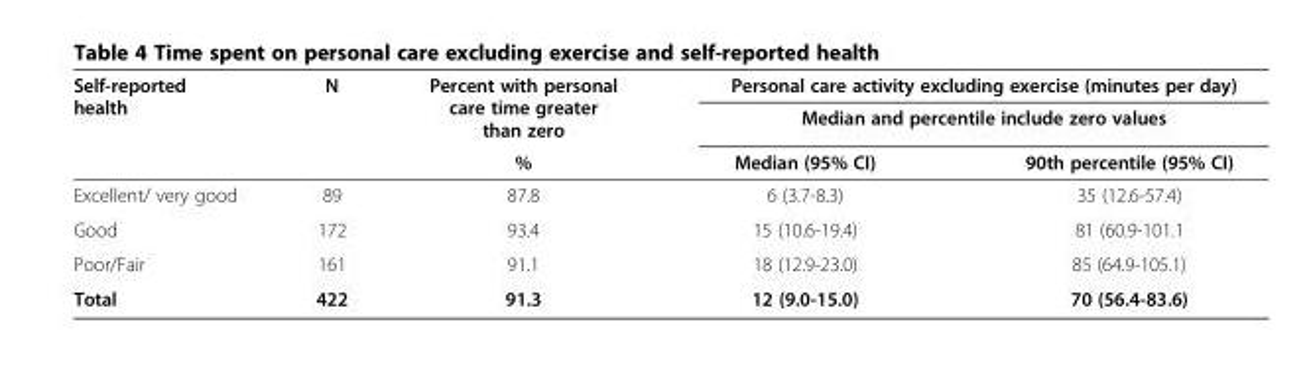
<table><thead><tr><td rowspan="3">Self-reported health</td><td rowspan="3">N</td><td rowspan="3">Percent with personal care time greater than zero %</td><td rowspan="2" colspan="2">Personal care activity excluding exercise (minutes per day) Median and percentile include zero values</td></tr><tr></tr><tr><td>Median (95% CI)</td><td>90th percentile (95% CI)</td></tr></thead><tbody><tr><td>Excellent/ very good</td><td>89</td><td>87.8</td><td>6 (3.7-8.3)</td><td>35 (12.6-57.4)</td></tr><tr><td>Good</td><td>172</td><td>93.4</td><td>15 (10.6-19.4)</td><td>81 (60.9-101.1</td></tr><tr><td>Poor/Fair</td><td>161</td><td>91.1</td><td>18 (12.9-23.0)</td><td>85 (64.9-105.1)</td></tr><tr><td>Total</td><td>422</td><td>91.3</td><td>12 (9.0-15.0)</td><td>70 (56.4-83.6)</td></tr></tbody></table>